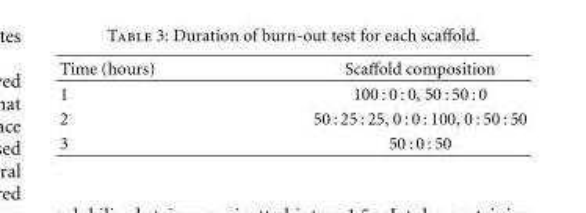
<table><thead><tr><td>Time (hours)</td><td>Scaffold composition</td></tr></thead><tbody><tr><td>1</td><td>100 : 0 : 0, 50 : 50 : 0</td></tr><tr><td>2</td><td>50 : 25 : 25, 0 : 0 : 100, 0 : 50 : 50</td></tr><tr><td>3</td><td>50 : 0 : 50</td></tr></tbody></table>